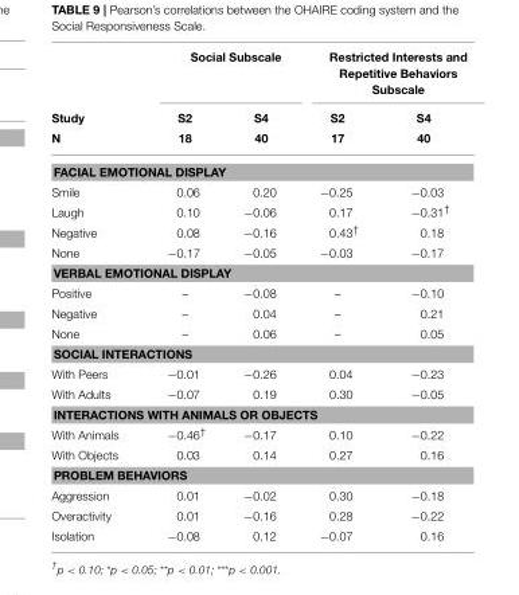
<table><thead><tr><td rowspan="3">Study N</td><td colspan="2">Social Subscale</td><td colspan="2">Restricted Interests and Repetitive Behaviors Subscale</td></tr><tr><td rowspan="2">S2 18</td><td rowspan="2">S4 40</td><td rowspan="2">S2 17</td><td rowspan="2">S4 40</td></tr><tr></tr></thead><tbody><tr><td colspan="5">FACIAL EMOTIONAL DISPLAY</td></tr><tr><td>Smile</td><td>0.06</td><td>0.20</td><td>−0.25</td><td>−0.03</td></tr><tr><td>Laugh</td><td>0.10</td><td>−0.06</td><td>0.17</td><td>−0.31<sup>†</sup></td></tr><tr><td>Negative</td><td>0.08</td><td>−0.16</td><td>0.43<sup>†</sup></td><td>0.18</td></tr><tr><td>None</td><td>−0.17</td><td>−0.05</td><td>−0.03</td><td>−0.17</td></tr><tr><td colspan="5">VERBAL EMOTIONAL DISPLAY</td></tr><tr><td>Positive</td><td>–</td><td>−0.08</td><td>–</td><td>−0.10</td></tr><tr><td>Negative</td><td>–</td><td>0.04</td><td>–</td><td>0.21</td></tr><tr><td>None</td><td>–</td><td>0.06</td><td>–</td><td>0.05</td></tr><tr><td colspan="5">SOCIAL INTERACTIONS</td></tr><tr><td>With Peers</td><td>−0.01</td><td>−0.26</td><td>0.04</td><td>−0.23</td></tr><tr><td>With Adults</td><td>−0.07</td><td>0.19</td><td>0.30</td><td>−0.05</td></tr><tr><td colspan="5">INTERACTIONS WITH ANIMALS OR OBJECTS</td></tr><tr><td>With Animals</td><td>−0.46<sup>†</sup></td><td>−0.17</td><td>0.10</td><td>−0.22</td></tr><tr><td>With Objects</td><td>0.03</td><td>0.14</td><td>0.27</td><td>0.16</td></tr><tr><td colspan="5">PROBLEM BEHAVIORS</td></tr><tr><td>Aggression</td><td>0.01</td><td>−0.02</td><td>0.30</td><td>−0.18</td></tr><tr><td>Overactivity</td><td>0.01</td><td>−0.16</td><td>0.28</td><td>−0.22</td></tr><tr><td>Isolation</td><td>−0.08</td><td>0.12</td><td>−0.07</td><td>0.16</td></tr></tbody></table>